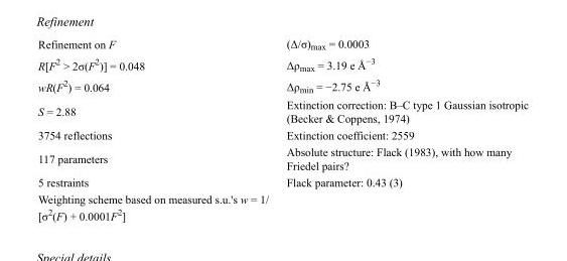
<table><tbody><tr><td>Refinement on F</td><td>(Δ/σ)<sub>max</sub> = 0.0003</td></tr><tr><td>R[F<sup>2</sup> &gt; 2σ(F<sup>2</sup>)] = 0.048</td><td>Δρ<sub>max</sub> = 3.19 e Å<sup>−3</sup></td></tr><tr><td>wR(F<sup>2</sup>) = 0.064</td><td>Δρ<sub>min</sub> = −2.75 e Å<sup>−3</sup></td></tr><tr><td>S = 2.88</td><td>Extinction correction: B–C type 1 Gaussian isotropic (Becker &amp; Coppens, 1974)</td></tr><tr><td>3754 reflections</td><td>Extinction coefficient: 2559</td></tr><tr><td>117 parameters</td><td>Absolute structure: Flack (1983), with how many Friedel pairs?</td></tr><tr><td>5 restraints</td><td>Flack parameter: 0.43 (3)</td></tr><tr><td>Weighting scheme based on measured s.u.&#x27;s w = 1/ [σ<sup>2</sup>(F) + 0.0001F<sup>2</sup>]</td><td></td></tr></tbody></table>